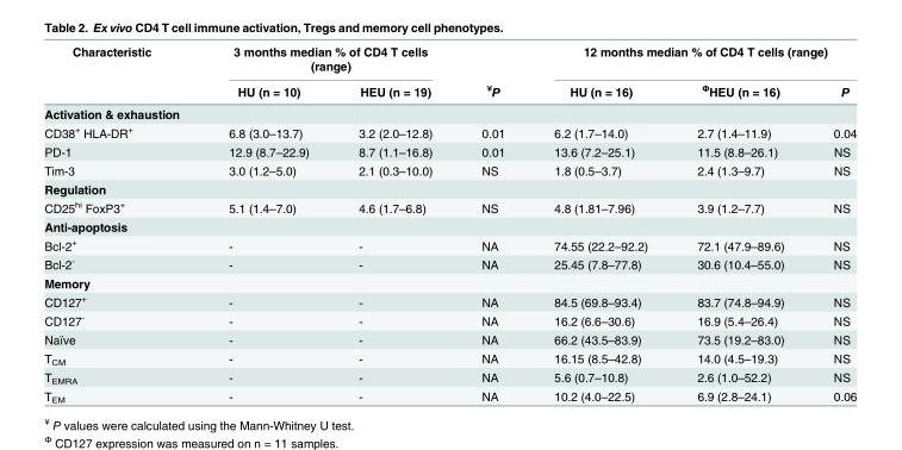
<table><thead><tr><td rowspan="2">Characteristic</td><td colspan="2">3 months median % of CD4 T cells (range)</td><td rowspan="2"><sup>¥</sup>P</td><td colspan="3">12 months median % of CD4 T cells (range)</td></tr><tr><td>HU (n = 10)</td><td>HEU (n = 19)</td><td>HU (n = 16)</td><td><sup>Φ</sup>HEU (n = 16)</td><td>P</td></tr></thead><tbody><tr><td colspan="7">Activation &amp; exhaustion</td></tr><tr><td>CD38<sup>+</sup> HLA-DR<sup>+</sup></td><td>6.8 (3.0–13.7)</td><td>3.2 (2.0–12.8)</td><td>0.01</td><td>6.2 (1.7–14.0)</td><td>2.7 (1.4–11.9)</td><td>0.04</td></tr><tr><td>PD-1</td><td>12.9 (8.7–22.9)</td><td>8.7 (1.1–16.8)</td><td>0.01</td><td>13.6 (7.2–25.1)</td><td>11.5 (8.8–26.1)</td><td>NS</td></tr><tr><td>Tim-3</td><td>3.0 (1.2–5.0)</td><td>2.1 (0.3–10.0)</td><td>NS</td><td>1.8 (0.5–3.7)</td><td>2.4 (1.3–9.7)</td><td>NS</td></tr><tr><td colspan="7">Regulation</td></tr><tr><td>CD25<sup>hi</sup> FoxP3<sup>+</sup></td><td>5.1 (1.4–7.0)</td><td>4.6 (1.7–6.8)</td><td>NS</td><td>4.8 (1.81–7.96)</td><td>3.9 (1.2–7.7)</td><td>NS</td></tr><tr><td colspan="7">Anti-apoptosis</td></tr><tr><td>Bcl-2<sup>+</sup></td><td>-</td><td>-</td><td>NA</td><td>74.55 (22.2–92.2)</td><td>72.1 (47.9–89.6)</td><td>NS</td></tr><tr><td>Bcl-2<sup>-</sup></td><td>-</td><td>-</td><td>NA</td><td>25.45 (7.8–77.8)</td><td>30.6 (10.4–55.0)</td><td>NS</td></tr><tr><td colspan="7">Memory</td></tr><tr><td>CD127<sup>+</sup></td><td>-</td><td>-</td><td>NA</td><td>84.5 (69.8–93.4)</td><td>83.7 (74.8–94.9)</td><td>NS</td></tr><tr><td>CD127<sup>-</sup></td><td>-</td><td>-</td><td>NA</td><td>16.2 (6.6–30.6)</td><td>16.9 (5.4–26.4)</td><td>NS</td></tr><tr><td>Naïve</td><td>-</td><td>-</td><td>NA</td><td>66.2 (43.5–83.9)</td><td>73.5 (19.2–83.0)</td><td>NS</td></tr><tr><td>T<sub>CM</sub></td><td>-</td><td>-</td><td>NA</td><td>16.15 (8.5–42.8)</td><td>14.0 (4.5–19.3)</td><td>NS</td></tr><tr><td>T<sub>EMRA</sub></td><td>-</td><td>-</td><td>NA</td><td>5.6 (0.7–10.8)</td><td>2.6 (1.0–52.2)</td><td>NS</td></tr><tr><td>T<sub>EM</sub></td><td>-</td><td>-</td><td>NA</td><td>10.2 (4.0–22.5)</td><td>6.9 (2.8–24.1)</td><td>0.06</td></tr></tbody></table>